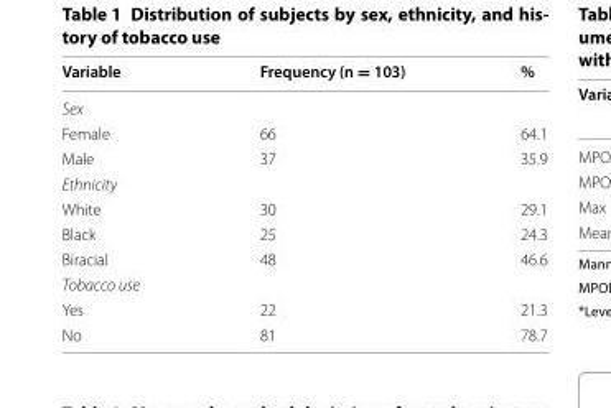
<table><thead><tr><td>Variable</td><td>Frequency (n = 103)</td><td>%</td></tr></thead><tbody><tr><td colspan="3">Sex</td></tr><tr><td>Female</td><td>66</td><td>64.1</td></tr><tr><td>Male</td><td>37</td><td>35.9</td></tr><tr><td colspan="3">Ethnicity</td></tr><tr><td>White</td><td>30</td><td>29.1</td></tr><tr><td>Black</td><td>25</td><td>24.3</td></tr><tr><td>Biracial</td><td>48</td><td>46.6</td></tr><tr><td colspan="3">Tobacco use</td></tr><tr><td>Yes</td><td>22</td><td>21.3</td></tr><tr><td>No</td><td>81</td><td>78.7</td></tr></tbody></table>